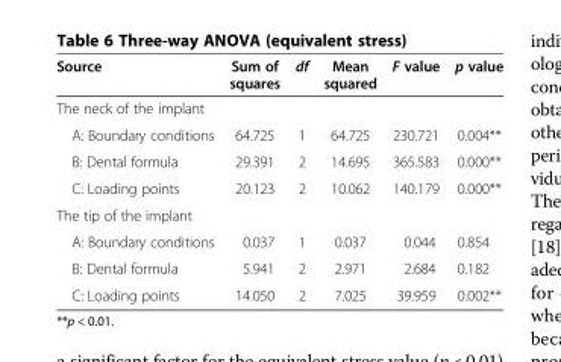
<table><thead><tr><td>Source</td><td>Sum of squares</td><td>df</td><td>Mean squared</td><td>F value</td><td>p value</td></tr></thead><tbody><tr><td colspan="6">The neck of the implant</td></tr><tr><td>A: Boundary conditions</td><td>64.725</td><td>1</td><td>64.725</td><td>230.721</td><td>0.004**</td></tr><tr><td>B: Dental formula</td><td>29.391</td><td>2</td><td>14.695</td><td>365.583</td><td>0.000**</td></tr><tr><td>C: Loading points</td><td>20.123</td><td>2</td><td>10.062</td><td>140.179</td><td>0.000**</td></tr><tr><td colspan="6">The tip of the implant</td></tr><tr><td>A: Boundary conditions</td><td>0.037</td><td>1</td><td>0.037</td><td>0.044</td><td>0.854</td></tr><tr><td>B: Dental formula</td><td>5.941</td><td>2</td><td>2.971</td><td>2.684</td><td>0.182</td></tr><tr><td>C: Loading points</td><td>14.050</td><td>2</td><td>7.025</td><td>39.959</td><td>0.002**</td></tr></tbody></table>